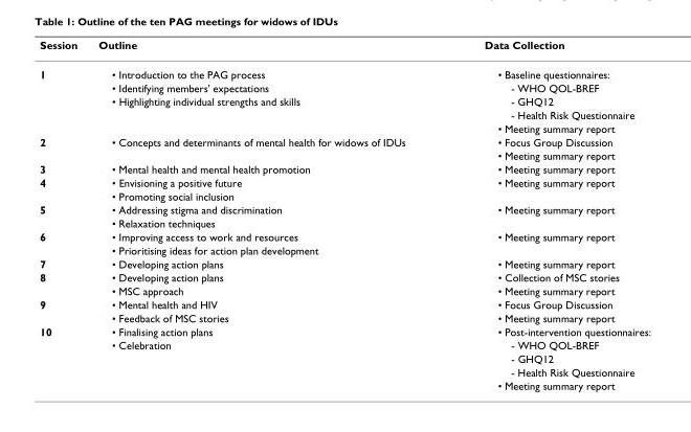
<table><thead><tr><td>Session</td><td>Outline</td><td>Data Collection</td></tr></thead><tbody><tr><td rowspan="5">1</td><td>• Introduction to the PAG process</td><td>• Baseline questionnaires:</td></tr><tr><td>• Identifying members&#x27; expectations</td><td>- WHO QOL-BREF</td></tr><tr><td>• Highlighting individual strengths and skills</td><td>- GHQ12</td></tr><tr><td></td><td>- Health Risk Questionnaire</td></tr><tr><td></td><td>• Meeting summary report</td></tr><tr><td rowspan="2">2</td><td>• Concepts and determinants of mental health for widows of IDUs</td><td>• Focus Group Discussion</td></tr><tr><td></td><td>• Meeting summary report</td></tr><tr><td>3</td><td>• Mental health and mental health promotion</td><td>• Meeting summary report</td></tr><tr><td rowspan="2">4</td><td>• Envisioning a positive future</td><td>• Meeting summary report</td></tr><tr><td>• Promoting social inclusion</td><td></td></tr><tr><td rowspan="2">5</td><td>• Addressing stigma and discrimination</td><td>• Meeting summary report</td></tr><tr><td>• Relaxation techniques</td><td></td></tr><tr><td rowspan="2">6</td><td>• Improving access to work and resources</td><td>• Meeting summary report</td></tr><tr><td>• Prioritising ideas for action plan development</td><td></td></tr><tr><td>7</td><td>• Developing action plans</td><td>• Meeting summary report</td></tr><tr><td rowspan="2">8</td><td>• Developing action plans</td><td>• Collection of MSC stories</td></tr><tr><td>• MSC approach</td><td>• Meeting summary report</td></tr><tr><td rowspan="2">9</td><td>• Mental health and HIV</td><td>• Focus Group Discussion</td></tr><tr><td>• Feedback of MSC stories</td><td>• Meeting summary report</td></tr><tr><td rowspan="5">10</td><td>• Finalising action plans</td><td>• Post-intervention questionnaires:</td></tr><tr><td>• Celebration</td><td>- WHO QOL-BREF</td></tr><tr><td></td><td>- GHQ12</td></tr><tr><td></td><td>- Health Risk Questionnaire</td></tr><tr><td></td><td>• Meeting summary report</td></tr></tbody></table>